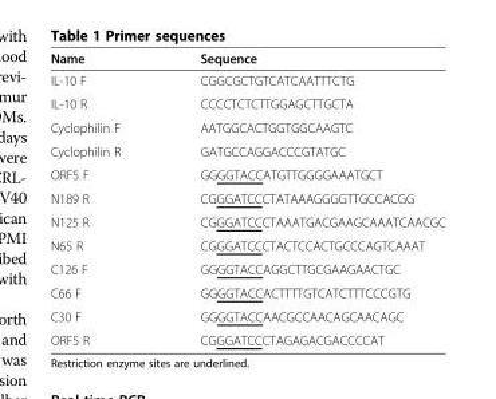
<table><thead><tr><td>Name</td><td>Sequence</td></tr></thead><tbody><tr><td>IL-10 F</td><td>CGGCGCTGTCATCAATTTCTG</td></tr><tr><td>IL-10 R</td><td>CCCCTCTCTTGGAGCTTGCTA</td></tr><tr><td>Cyclophilin F</td><td>AATGGCACTGGTGGCAAGTC</td></tr><tr><td>Cyclophilin R</td><td>GATGCCAGGACCCGTATGC</td></tr><tr><td>ORF5 F</td><td>GGGGTACCATGTTGGGGAAATGCT</td></tr><tr><td>N189 R</td><td>CGGGATCCCTATAAAGGGGTTGCCACGG</td></tr><tr><td>N125 R</td><td>CGGGATCCCTAAATGACGAAGCAAATCAACGC</td></tr><tr><td>N65 R</td><td>CGGGATCCCTACTCCACTGCCCAGTCAAAT</td></tr><tr><td>C126 F</td><td>GGGGTACCAGGCTTGCGAAGAACTGC</td></tr><tr><td>C66 F</td><td>GGGGTACCACTTTTGTCATCTTTCCCGTG</td></tr><tr><td>C30 F</td><td>GGGGTACCAACGCCAACAGCAACAGC</td></tr><tr><td>ORF5 R</td><td>CGGGATCCCTAGAGACGACCCCAT</td></tr></tbody></table>